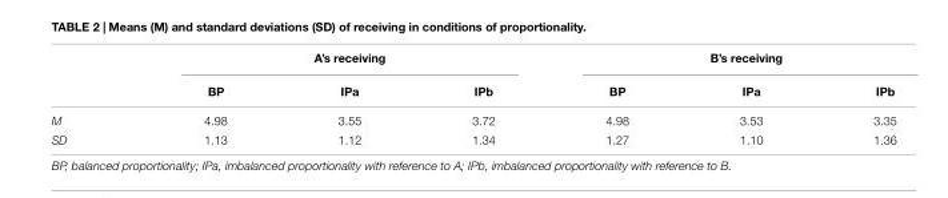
<table><thead><tr><td rowspan="2"></td><td colspan="3">A’s receiving</td><td colspan="3">B’s receiving</td></tr><tr><td>BP</td><td>IPa</td><td>IPb</td><td>BP</td><td>IPa</td><td>IPb</td></tr></thead><tbody><tr><td>M</td><td>4.98</td><td>3.55</td><td>3.72</td><td>4.98</td><td>3.53</td><td>3.35</td></tr><tr><td>SD</td><td>1.13</td><td>1.12</td><td>1.34</td><td>1.27</td><td>1.10</td><td>1.36</td></tr></tbody></table>